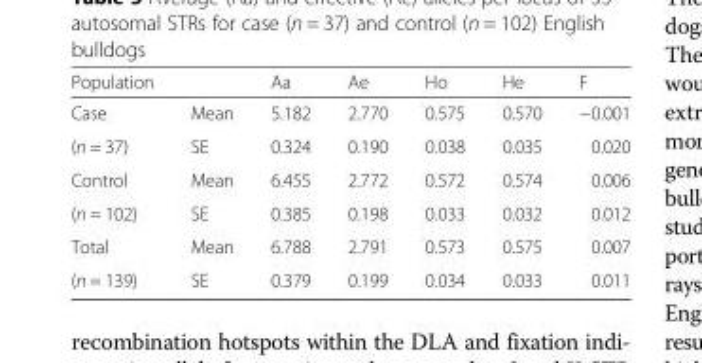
<table><thead><tr><td>Population</td><td></td><td>Aa</td><td>Ae</td><td>Ho</td><td>He</td><td>F</td></tr></thead><tbody><tr><td>Case</td><td>Mean</td><td>5.182</td><td>2.770</td><td>0.575</td><td>0.570</td><td>−0.001</td></tr><tr><td>(n = 37)</td><td>SE</td><td>0.324</td><td>0.190</td><td>0.038</td><td>0.035</td><td>0.020</td></tr><tr><td>Control</td><td>Mean</td><td>6.455</td><td>2.772</td><td>0.572</td><td>0.574</td><td>0.006</td></tr><tr><td>(n = 102)</td><td>SE</td><td>0.385</td><td>0.198</td><td>0.033</td><td>0.032</td><td>0.012</td></tr><tr><td>Total</td><td>Mean</td><td>6.788</td><td>2.791</td><td>0.573</td><td>0.575</td><td>0.007</td></tr><tr><td>(n = 139)</td><td>SE</td><td>0.379</td><td>0.199</td><td>0.034</td><td>0.033</td><td>0.011</td></tr></tbody></table>